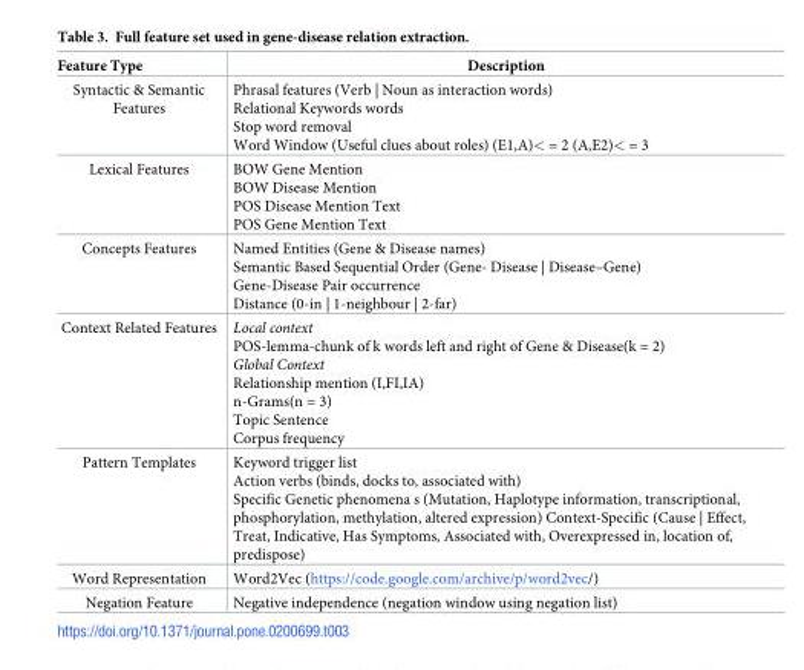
<table><thead><tr><td>Feature Type</td><td>Description</td></tr></thead><tbody><tr><td>Syntactic &amp; Semantic Features</td><td>Phrasal features (Verb | Noun as interaction words) Relational Keywords words Stop word removal Word Window (Useful clues about roles) (E1,A)&lt; = 2 (A,E2)&lt; = 3</td></tr><tr><td>Lexical Features</td><td>BOW Gene Mention BOW Disease Mention POS Disease Mention Text POS Gene Mention Text</td></tr><tr><td>Concepts Features</td><td>Named Entities (Gene &amp; Disease names) Semantic Based Sequential Order (Gene- Disease | Disease–Gene) Gene-Disease Pair occurrence Distance (0-in | 1-neighbour | 2-far)</td></tr><tr><td>Context Related Features</td><td>Local context POS-lemma-chunk of k words left and right of Gene &amp; Disease(k = 2) Global Context Relationship mention (I,FI,IA) n-Grams(n = 3) Topic Sentence Corpus frequency</td></tr><tr><td>Pattern Templates</td><td>Keyword trigger list Action verbs (binds, docks to, associated with) Specific Genetic phenomena s (Mutation, Haplotype information, transcriptional, phosphorylation, methylation, altered expression) Context-Specific (Cause | Effect, Treat, Indicative, Has Symptoms, Associated with, Overexpressed in, location of, predispose)</td></tr><tr><td>Word Representation</td><td>Word2Vec (https://code.google.com/archive/p/word2vec/)</td></tr><tr><td>Negation Feature</td><td>Negative independence (negation window using negation list)</td></tr></tbody></table>